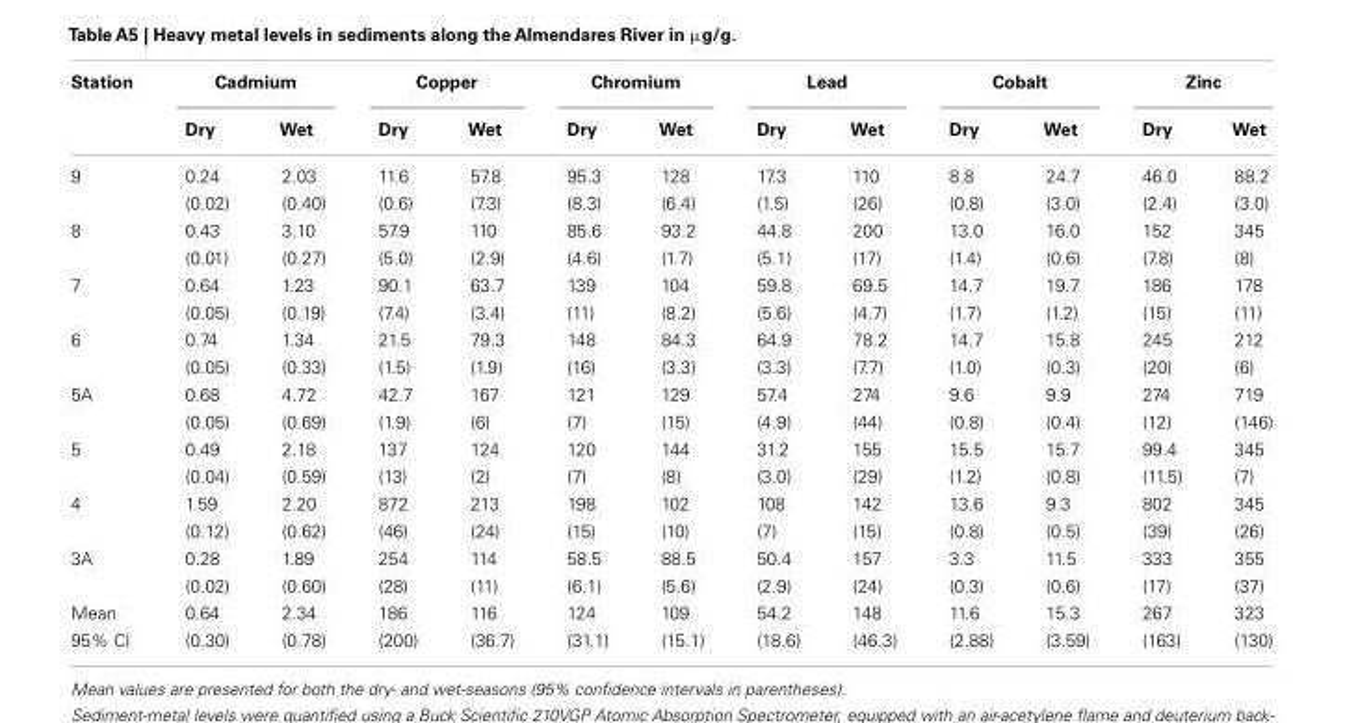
<table><thead><tr><td rowspan="2">Station</td><td colspan="2">Cadmium</td><td colspan="2">Copper</td><td colspan="2">Chromium</td><td colspan="2">Lead</td><td colspan="2">Cobalt</td><td colspan="2">Zinc</td></tr><tr><td>Dry</td><td>Wet</td><td>Dry</td><td>Wet</td><td>Dry</td><td>Wet</td><td>Dry</td><td>Wet</td><td>Dry</td><td>Wet</td><td>Dry</td><td>Wet</td></tr></thead><tbody><tr><td rowspan="2">9</td><td>0.24</td><td>2.03</td><td>11.6</td><td>57.8</td><td>95.3</td><td>128</td><td>17.3</td><td>110</td><td>8.8</td><td>24.7</td><td>46.0</td><td>88.2</td></tr><tr><td>(0.02)</td><td>(0.40)</td><td>(0.6)</td><td>(7.3)</td><td>(8.3)</td><td>(6.4)</td><td>(1.5)</td><td>(26)</td><td>(0.8)</td><td>(3.0)</td><td>(2.4)</td><td>(3.0)</td></tr><tr><td rowspan="2">8</td><td>0.43</td><td>3.10</td><td>57.9</td><td>110</td><td>85.6</td><td>93.2</td><td>44.8</td><td>200</td><td>13.0</td><td>16.0</td><td>152</td><td>345</td></tr><tr><td>(0.01)</td><td>(0.27)</td><td>(5.0)</td><td>(2.9)</td><td>(4.6)</td><td>(1.7)</td><td>(5.1)</td><td>(17)</td><td>(1.4)</td><td>(0.6)</td><td>(7.8)</td><td>(8)</td></tr><tr><td rowspan="2">7</td><td>0.64</td><td>1.23</td><td>90.1</td><td>63.7</td><td>139</td><td>104</td><td>59.8</td><td>69.5</td><td>14.7</td><td>19.7</td><td>186</td><td>178</td></tr><tr><td>(0.05)</td><td>(0.19)</td><td>(7.4)</td><td>(3.4)</td><td>(11)</td><td>(8.2)</td><td>(5.6)</td><td>(4.7)</td><td>(1.7)</td><td>(1.2)</td><td>(15)</td><td>(11)</td></tr><tr><td rowspan="2">6</td><td>0.74</td><td>1.34</td><td>21.5</td><td>79.3</td><td>148</td><td>84.3</td><td>64.9</td><td>78.2</td><td>14.7</td><td>15.8</td><td>245</td><td>212</td></tr><tr><td>(0.05)</td><td>(0.33)</td><td>(1.5)</td><td>(1.9)</td><td>(16)</td><td>(3.3)</td><td>(3.3)</td><td>(7.7)</td><td>(1.0)</td><td>(0.3)</td><td>(20)</td><td>(6)</td></tr><tr><td rowspan="2">5A</td><td>0.68</td><td>4.72</td><td>42.7</td><td>167</td><td>121</td><td>129</td><td>57.4</td><td>274</td><td>9.6</td><td>9.9</td><td>274</td><td>719</td></tr><tr><td>(0.05)</td><td>(0.69)</td><td>(1.9)</td><td>(6)</td><td>(7)</td><td>(15)</td><td>(4.9)</td><td>(44)</td><td>(0.8)</td><td>(0.4)</td><td>(12)</td><td>(146)</td></tr><tr><td rowspan="2">5</td><td>0.49</td><td>2.18</td><td>137</td><td>124</td><td>120</td><td>144</td><td>31.2</td><td>155</td><td>15.5</td><td>15.7</td><td>99.4</td><td>345</td></tr><tr><td>(0.04)</td><td>(0.59)</td><td>(13)</td><td>(2)</td><td>(7)</td><td>(8)</td><td>(3.0)</td><td>(29)</td><td>(1.2)</td><td>(0.8)</td><td>(11.5)</td><td>(7)</td></tr><tr><td rowspan="2">4</td><td>1.59</td><td>2.20</td><td>872</td><td>213</td><td>198</td><td>102</td><td>108</td><td>142</td><td>13.6</td><td>9.3</td><td>802</td><td>345</td></tr><tr><td>(0.12)</td><td>(0.62)</td><td>(46)</td><td>(24)</td><td>(15)</td><td>(10)</td><td>(7)</td><td>(15)</td><td>(0.8)</td><td>(0.5)</td><td>(39)</td><td>(26)</td></tr><tr><td rowspan="2">3A</td><td>0.28</td><td>1.89</td><td>254</td><td>114</td><td>58.5</td><td>88.5</td><td>50.4</td><td>157</td><td>3.3</td><td>11.5</td><td>333</td><td>355</td></tr><tr><td>(0.02)</td><td>(0.60)</td><td>(28)</td><td>(11)</td><td>(6.1)</td><td>(5.6)</td><td>(2.9)</td><td>(24)</td><td>(0.3)</td><td>(0.6)</td><td>(17)</td><td>(37)</td></tr><tr><td>Mean</td><td>0.64</td><td>2.34</td><td>186</td><td>116</td><td>124</td><td>109</td><td>54.2</td><td>148</td><td>11.6</td><td>15.3</td><td>267</td><td>323</td></tr><tr><td>95% CI</td><td>(0.30)</td><td>(0.78)</td><td>(200)</td><td>(36.7)</td><td>(31.1)</td><td>(15.1)</td><td>(18.6)</td><td>(46.3)</td><td>(2.88)</td><td>(3.59)</td><td>(163)</td><td>(130)</td></tr></tbody></table>